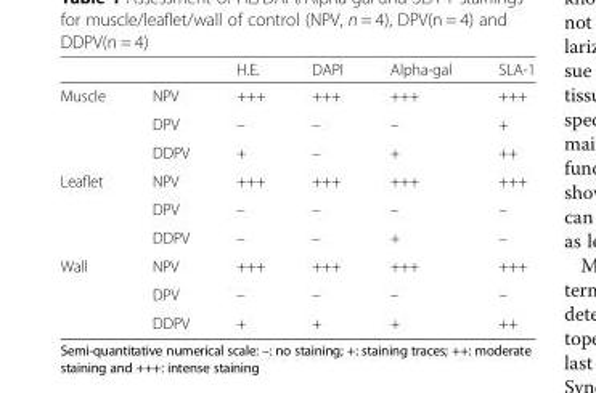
<table><thead><tr><td></td><td></td><td>H.E.</td><td>DAPI</td><td>Alpha-gal</td><td>SLA-1</td></tr></thead><tbody><tr><td rowspan="3">Muscle</td><td>NPV</td><td>+++</td><td>+++</td><td>+++</td><td>+++</td></tr><tr><td>DPV</td><td>–</td><td>–</td><td>–</td><td>+</td></tr><tr><td>DDPV</td><td>+</td><td>–</td><td>+</td><td>++</td></tr><tr><td rowspan="3">Leaflet</td><td>NPV</td><td>+++</td><td>+++</td><td>+++</td><td>+++</td></tr><tr><td>DPV</td><td>–</td><td>–</td><td>–</td><td>–</td></tr><tr><td>DDPV</td><td>–</td><td>–</td><td>+</td><td>–</td></tr><tr><td rowspan="3">Wall</td><td>NPV</td><td>+++</td><td>+++</td><td>+++</td><td>+++</td></tr><tr><td>DPV</td><td>–</td><td>–</td><td>–</td><td>–</td></tr><tr><td>DDPV</td><td>+</td><td>+</td><td>+</td><td>++</td></tr></tbody></table>